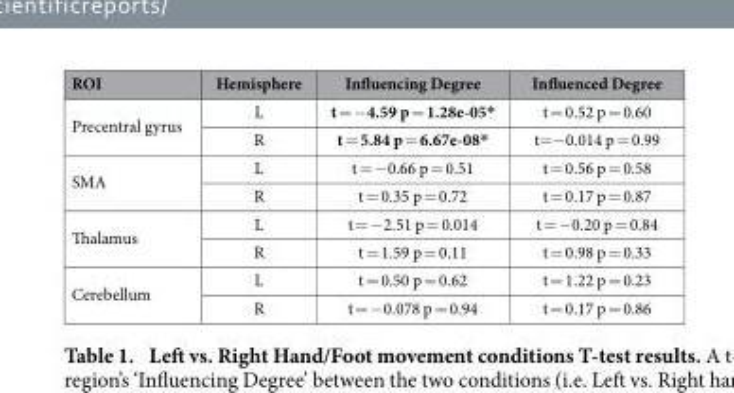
<table><thead><tr><td>ROI</td><td>Hemisphere</td><td>Influencing Degree</td><td>Influenced Degree</td></tr></thead><tbody><tr><td rowspan="2">Precentral gyrus</td><td>L</td><td>t = −4.59 p = 1.28e-05*</td><td>t = 0.52 p = 0.60</td></tr><tr><td>R</td><td>t = 5.84 p = 6.67e-08*</td><td>t= −0.014 p = 0.99</td></tr><tr><td rowspan="2">SMA</td><td>L</td><td>t = −0.66 p = 0.51</td><td>t = 0.56 p = 0.58</td></tr><tr><td>R</td><td>t = 0.35 p = 0.72</td><td>t = 0.17 p = 0.87</td></tr><tr><td rowspan="2">Thalamus</td><td>L</td><td>t = −2.51 p = 0.014</td><td>t = −0.20 p = 0.84</td></tr><tr><td>R</td><td>t = 1.59 p = 0.11</td><td>t = 0.98 p = 0.33</td></tr><tr><td rowspan="2">Cerebellum</td><td>L</td><td>t = 0.50 p = 0.62</td><td>t = 1.22 p = 0.23</td></tr><tr><td>R</td><td>t = −0.078 p = 0.94</td><td>t = 0.17 p = 0.86</td></tr></tbody></table>